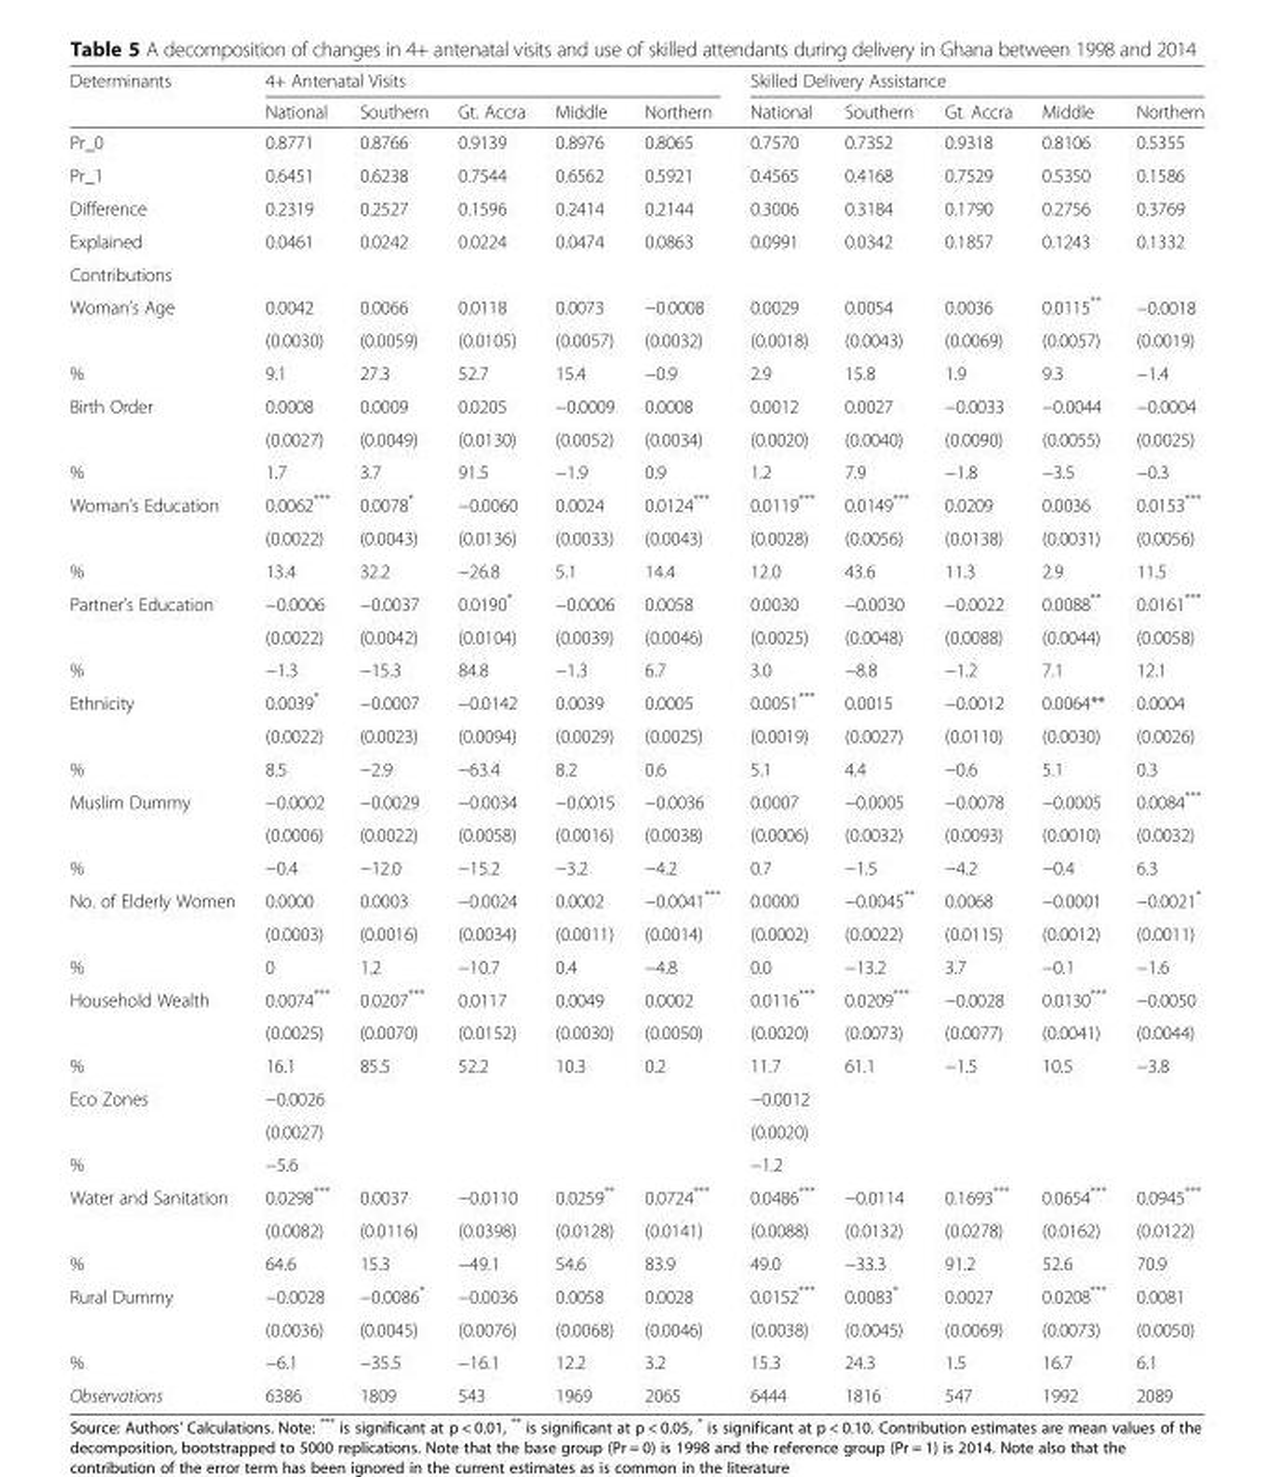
<table><thead><tr><td rowspan="2">Determinants</td><td colspan="5">4+ Antenatal Visits</td><td colspan="5">Skilled Delivery Assistance</td></tr><tr><td>National</td><td>Southern</td><td>Gt. Accra</td><td>Middle</td><td>Northern</td><td>National</td><td>Southern</td><td>Gt. Accra</td><td>Middle</td><td>Northern</td></tr></thead><tbody><tr><td>Pr_0</td><td>0.8771</td><td>0.8766</td><td>0.9139</td><td>0.8976</td><td>0.8065</td><td>0.7570</td><td>0.7352</td><td>0.9318</td><td>0.8106</td><td>0.5355</td></tr><tr><td>Pr_1</td><td>0.6451</td><td>0.6238</td><td>0.7544</td><td>0.6562</td><td>0.5921</td><td>0.4565</td><td>0.4168</td><td>0.7529</td><td>0.5350</td><td>0.1586</td></tr><tr><td>Difference</td><td>0.2319</td><td>0.2527</td><td>0.1596</td><td>0.2414</td><td>0.2144</td><td>0.3006</td><td>0.3184</td><td>0.1790</td><td>0.2756</td><td>0.3769</td></tr><tr><td>Explained</td><td>0.0461</td><td>0.0242</td><td>0.0224</td><td>0.0474</td><td>0.0863</td><td>0.0991</td><td>0.0342</td><td>0.1857</td><td>0.1243</td><td>0.1332</td></tr><tr><td colspan="11">Contributions</td></tr><tr><td rowspan="2">Woman’s Age</td><td>0.0042</td><td>0.0066</td><td>0.0118</td><td>0.0073</td><td>−0.0008</td><td>0.0029</td><td>0.0054</td><td>0.0036</td><td>0.0115**</td><td>−0.0018</td></tr><tr><td>(0.0030)</td><td>(0.0059)</td><td>(0.0105)</td><td>(0.0057)</td><td>(0.0032)</td><td>(0.0018)</td><td>(0.0043)</td><td>(0.0069)</td><td>(0.0057)</td><td>(0.0019)</td></tr><tr><td>%</td><td>9.1</td><td>27.3</td><td>52.7</td><td>15.4</td><td>−0.9</td><td>2.9</td><td>15.8</td><td>1.9</td><td>9.3</td><td>−1.4</td></tr><tr><td rowspan="2">Birth Order</td><td>0.0008</td><td>0.0009</td><td>0.0205</td><td>−0.0009</td><td>0.0008</td><td>0.0012</td><td>0.0027</td><td>−0.0033</td><td>−0.0044</td><td>−0.0004</td></tr><tr><td>(0.0027)</td><td>(0.0049)</td><td>(0.0130)</td><td>(0.0052)</td><td>(0.0034)</td><td>(0.0020)</td><td>(0.0040)</td><td>(0.0090)</td><td>(0.0055)</td><td>(0.0025)</td></tr><tr><td>%</td><td>1.7</td><td>3.7</td><td>91.5</td><td>−1.9</td><td>0.9</td><td>1.2</td><td>7.9</td><td>−1.8</td><td>−3.5</td><td>−0.3</td></tr><tr><td rowspan="2">Woman’s Education</td><td>0.0062***</td><td>0.0078*</td><td>−0.0060</td><td>0.0024</td><td>0.0124***</td><td>0.0119***</td><td>0.0149***</td><td>0.0209</td><td>0.0036</td><td>0.0153***</td></tr><tr><td>(0.0022)</td><td>(0.0043)</td><td>(0.0136)</td><td>(0.0033)</td><td>(0.0043)</td><td>(0.0028)</td><td>(0.0056)</td><td>(0.0138)</td><td>(0.0031)</td><td>(0.0056)</td></tr><tr><td>%</td><td>13.4</td><td>32.2</td><td>−26.8</td><td>5.1</td><td>14.4</td><td>12.0</td><td>43.6</td><td>11.3</td><td>2.9</td><td>11.5</td></tr><tr><td rowspan="2">Partner’s Education</td><td>−0.0006</td><td>−0.0037</td><td>0.0190*</td><td>−0.0006</td><td>0.0058</td><td>0.0030</td><td>−0.0030</td><td>−0.0022</td><td>0.0088**</td><td>0.0161***</td></tr><tr><td>(0.0022)</td><td>(0.0042)</td><td>(0.0104)</td><td>(0.0039)</td><td>(0.0046)</td><td>(0.0025)</td><td>(0.0048)</td><td>(0.0088)</td><td>(0.0044)</td><td>(0.0058)</td></tr><tr><td>%</td><td>−1.3</td><td>−15.3</td><td>84.8</td><td>−1.3</td><td>6.7</td><td>3.0</td><td>−8.8</td><td>−1.2</td><td>7.1</td><td>12.1</td></tr><tr><td rowspan="2">Ethnicity</td><td>0.0039*</td><td>−0.0007</td><td>−0.0142</td><td>0.0039</td><td>0.0005</td><td>0.0051***</td><td>0.0015</td><td>−0.0012</td><td>0.0064**</td><td>0.0004</td></tr><tr><td>(0.0022)</td><td>(0.0023)</td><td>(0.0094)</td><td>(0.0029)</td><td>(0.0025)</td><td>(0.0019)</td><td>(0.0027)</td><td>(0.0110)</td><td>(0.0030)</td><td>(0.0026)</td></tr><tr><td>%</td><td>8.5</td><td>−2.9</td><td>−63.4</td><td>8.2</td><td>0.6</td><td>5.1</td><td>4.4</td><td>−0.6</td><td>5.1</td><td>0.3</td></tr><tr><td rowspan="2">Muslim Dummy</td><td>−0.0002</td><td>−0.0029</td><td>−0.0034</td><td>−0.0015</td><td>−0.0036</td><td>0.0007</td><td>−0.0005</td><td>−0.0078</td><td>−0.0005</td><td>0.0084***</td></tr><tr><td>(0.0006)</td><td>(0.0022)</td><td>(0.0058)</td><td>(0.0016)</td><td>(0.0038)</td><td>(0.0006)</td><td>(0.0032)</td><td>(0.0093)</td><td>(0.0010)</td><td>(0.0032)</td></tr><tr><td>%</td><td>−0.4</td><td>−12.0</td><td>−15.2</td><td>−3.2</td><td>−4.2</td><td>0.7</td><td>−1.5</td><td>−4.2</td><td>−0.4</td><td>6.3</td></tr><tr><td rowspan="2">No. of Elderly Women</td><td>0.0000</td><td>0.0003</td><td>−0.0024</td><td>0.0002</td><td>−0.0041***</td><td>0.0000</td><td>−0.0045**</td><td>0.0068</td><td>−0.0001</td><td>−0.0021*</td></tr><tr><td>(0.0003)</td><td>(0.0016)</td><td>(0.0034)</td><td>(0.0011)</td><td>(0.0014)</td><td>(0.0002)</td><td>(0.0022)</td><td>(0.0115)</td><td>(0.0012)</td><td>(0.0011)</td></tr><tr><td>%</td><td>0</td><td>1.2</td><td>−10.7</td><td>0.4</td><td>−4.8</td><td>0.0</td><td>−13.2</td><td>3.7</td><td>−0.1</td><td>−1.6</td></tr><tr><td rowspan="2">Household Wealth</td><td>0.0074***</td><td>0.0207***</td><td>0.0117</td><td>0.0049</td><td>0.0002</td><td>0.0116***</td><td>0.0209***</td><td>−0.0028</td><td>0.0130***</td><td>−0.0050</td></tr><tr><td>(0.0025)</td><td>(0.0070)</td><td>(0.0152)</td><td>(0.0030)</td><td>(0.0050)</td><td>(0.0020)</td><td>(0.0073)</td><td>(0.0077)</td><td>(0.0041)</td><td>(0.0044)</td></tr><tr><td>%</td><td>16.1</td><td>85.5</td><td>52.2</td><td>10.3</td><td>0.2</td><td>11.7</td><td>61.1</td><td>−1.5</td><td>10.5</td><td>−3.8</td></tr><tr><td rowspan="2">Eco Zones</td><td>−0.0026</td><td></td><td></td><td></td><td></td><td>−0.0012</td><td></td><td></td><td></td><td></td></tr><tr><td>(0.0027)</td><td></td><td></td><td></td><td></td><td>(0.0020)</td><td></td><td></td><td></td><td></td></tr><tr><td>%</td><td>−5.6</td><td></td><td></td><td></td><td></td><td>−1.2</td><td></td><td></td><td></td><td></td></tr><tr><td rowspan="2">Water and Sanitation</td><td>0.0298***</td><td>0.0037</td><td>−0.0110</td><td>0.0259**</td><td>0.0724***</td><td>0.0486***</td><td>−0.0114</td><td>0.1693***</td><td>0.0654***</td><td>0.0945***</td></tr><tr><td>(0.0082)</td><td>(0.0116)</td><td>(0.0398)</td><td>(0.0128)</td><td>(0.0141)</td><td>(0.0088)</td><td>(0.0132)</td><td>(0.0278)</td><td>(0.0162)</td><td>(0.0122)</td></tr><tr><td>%</td><td>64.6</td><td>15.3</td><td>−49.1</td><td>54.6</td><td>83.9</td><td>49.0</td><td>−33.3</td><td>91.2</td><td>52.6</td><td>70.9</td></tr><tr><td rowspan="2">Rural Dummy</td><td>−0.0028</td><td>−0.0086*</td><td>−0.0036</td><td>0.0058</td><td>0.0028</td><td>0.0152***</td><td>0.0083*</td><td>0.0027</td><td>0.0208***</td><td>0.0081</td></tr><tr><td>(0.0036)</td><td>(0.0045)</td><td>(0.0076)</td><td>(0.0068)</td><td>(0.0046)</td><td>(0.0038)</td><td>(0.0045)</td><td>(0.0069)</td><td>(0.0073)</td><td>(0.0050)</td></tr><tr><td>%</td><td>−6.1</td><td>−35.5</td><td>−16.1</td><td>12.2</td><td>3.2</td><td>15.3</td><td>24.3</td><td>1.5</td><td>16.7</td><td>6.1</td></tr><tr><td>Observations</td><td>6386</td><td>1809</td><td>543</td><td>1969</td><td>2065</td><td>6444</td><td>1816</td><td>547</td><td>1992</td><td>2089</td></tr></tbody></table>